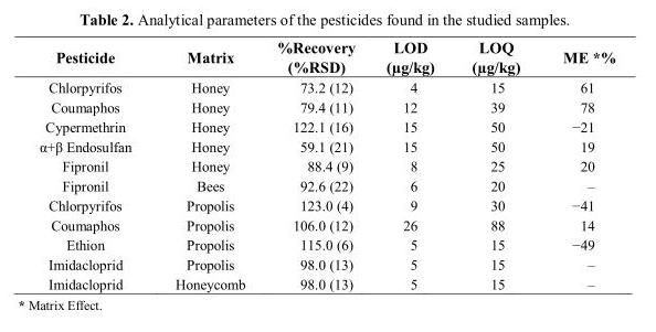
<table><thead><tr><td>Pesticide</td><td>Matrix</td><td>%Recovery (%RSD)</td><td>LOD (µg/kg)</td><td>LOQ (µg/kg)</td><td>ME *%</td></tr></thead><tbody><tr><td>Chlorpyrifos</td><td>Honey</td><td>73.2 (12)</td><td>4</td><td>15</td><td>61</td></tr><tr><td>Coumaphos</td><td>Honey</td><td>79.4 (11)</td><td>12</td><td>39</td><td>78</td></tr><tr><td>Cypermethrin</td><td>Honey</td><td>122.1 (16)</td><td>15</td><td>50</td><td>−21</td></tr><tr><td>α+β Endosulfan</td><td>Honey</td><td>59.1 (21)</td><td>15</td><td>50</td><td>19</td></tr><tr><td>Fipronil</td><td>Honey</td><td>88.4 (9)</td><td>8</td><td>25</td><td>20</td></tr><tr><td>Fipronil</td><td>Bees</td><td>92.6 (22)</td><td>6</td><td>20</td><td>–</td></tr><tr><td>Chlorpyrifos</td><td>Propolis</td><td>123.0 (4)</td><td>9</td><td>30</td><td>−41</td></tr><tr><td>Coumaphos</td><td>Propolis</td><td>106.0 (12)</td><td>26</td><td>88</td><td>14</td></tr><tr><td>Ethion</td><td>Propolis</td><td>115.0 (6)</td><td>5</td><td>15</td><td>−49</td></tr><tr><td>Imidacloprid</td><td>Propolis</td><td>98.0 (13)</td><td>5</td><td>15</td><td>–</td></tr><tr><td>Imidacloprid</td><td>Honeycomb</td><td>98.0 (13)</td><td>5</td><td>15</td><td>–</td></tr></tbody></table>